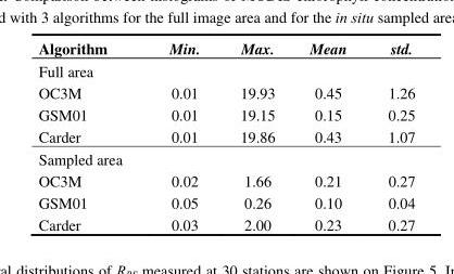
<table><thead><tr><td>Algorithm</td><td>Min.</td><td>Max.</td><td>Mean</td><td>std.</td></tr></thead><tbody><tr><td colspan="5">Full area</td></tr><tr><td>OC3M</td><td>0.01</td><td>19.93</td><td>0.45</td><td>1.26</td></tr><tr><td>GSM01</td><td>0.01</td><td>19.15</td><td>0.15</td><td>0.25</td></tr><tr><td>Carder</td><td>0.01</td><td>19.86</td><td>0.43</td><td>1.07</td></tr><tr><td colspan="5">Sampled area</td></tr><tr><td>OC3M</td><td>0.02</td><td>1.66</td><td>0.21</td><td>0.27</td></tr><tr><td>GSM01</td><td>0.05</td><td>0.26</td><td>0.10</td><td>0.04</td></tr><tr><td>Carder</td><td>0.03</td><td>2.00</td><td>0.23</td><td>0.27</td></tr></tbody></table>